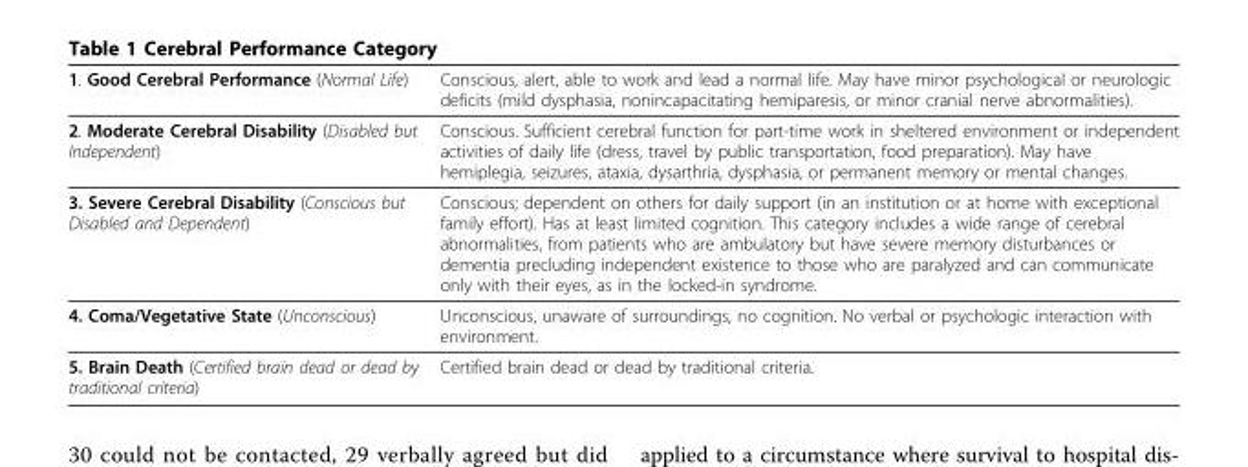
<table><thead><tr><td>1. Good Cerebral Performance (Normal Life)</td><td>Conscious, alert, able to work and lead a normal life. May have minor psychological or neurologic deficits (mild dysphasia, nonincapacitating hemiparesis, or minor cranial nerve abnormalities).</td></tr></thead><tbody><tr><td>2. Moderate Cerebral Disability (Disabled but Independent)</td><td>Conscious. Sufficient cerebral function for part-time work in sheltered environment or independent activities of daily life (dress, travel by public transportation, food preparation). May have hemiplegia, seizures, ataxia, dysarthria, dysphasia, or permanent memory or mental changes.</td></tr><tr><td>3. Severe Cerebral Disability (Conscious but Disabled and Dependent)</td><td>Conscious; dependent on others for daily support (in an institution or at home with exceptional family effort). Has at least limited cognition. This category includes a wide range of cerebral abnormalities, from patients who are ambulatory but have severe memory disturbances or dementia precluding independent existence to those who are paralyzed and can communicate only with their eyes, as in the locked-in syndrome.</td></tr><tr><td>4. Coma/Vegetative State (Unconscious)</td><td>Unconscious, unaware of surroundings, no cognition. No verbal or psychologic interaction with environment.</td></tr><tr><td>5. Brain Death (Certified brain dead or dead by traditional criteria)</td><td>Certified brain dead or dead by traditional criteria.</td></tr></tbody></table>